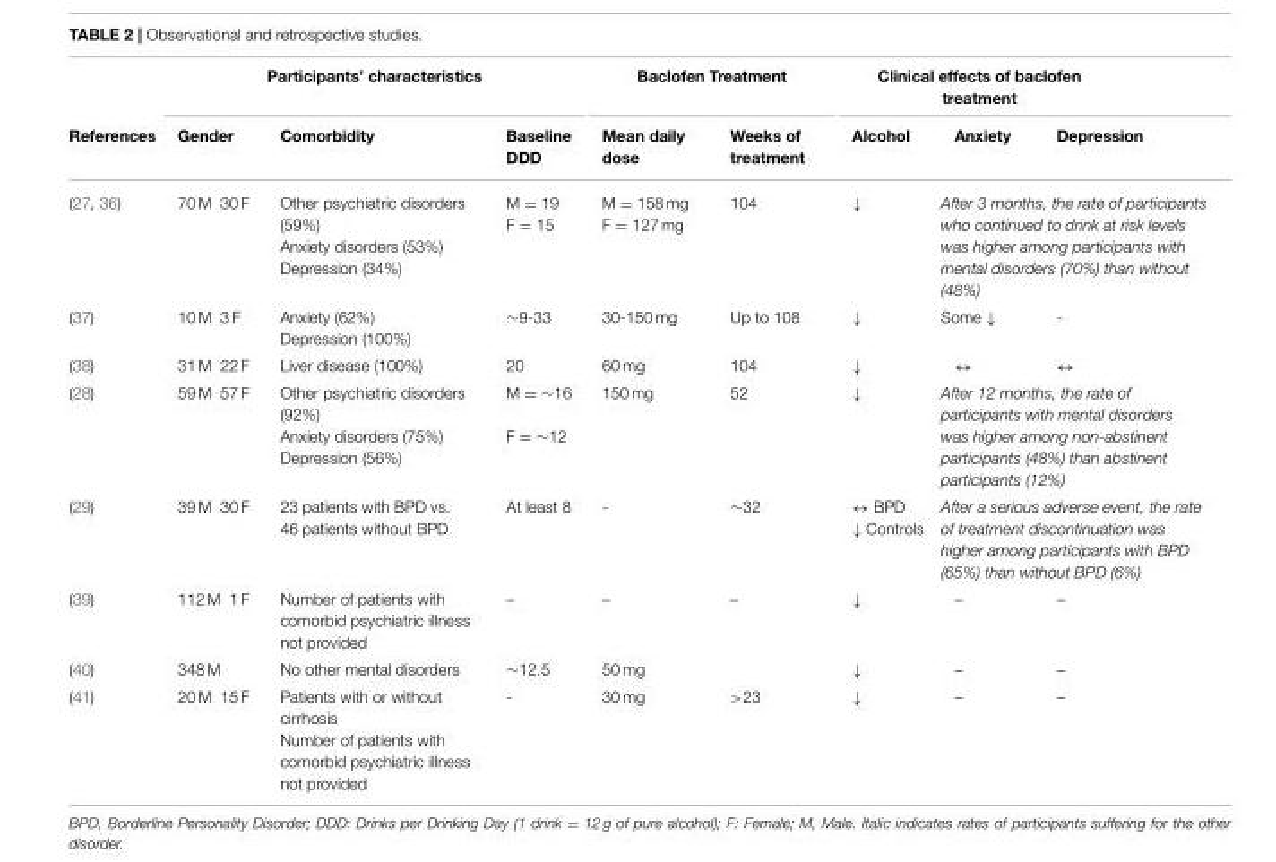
<table><thead><tr><td rowspan="2">References</td><td colspan="3">Participants’ characteristics</td><td colspan="2">Baclofen Treatment</td><td colspan="3">Clinical effects of baclofen treatment</td></tr><tr><td>Gender</td><td>Comorbidity</td><td>Baseline DDD</td><td>Mean daily dose</td><td>Weeks of treatment</td><td>Alcohol</td><td>Anxiety</td><td>Depression</td></tr></thead><tbody><tr><td>(27, 36)</td><td>70 M 30 F</td><td>Other psychiatric disorders (59%) Anxiety disorders (53%) Depression (34%)</td><td>M = 19 F = 15</td><td>M = 158 mg F = 127 mg</td><td>104</td><td>↓</td><td colspan="2">After 3 months, the rate of participants who continued to drink at risk levels was higher among participants with mental disorders (70%) than without (48%)</td></tr><tr><td>(37)</td><td>10 M 3 F</td><td>Anxiety (62%) Depression (100%)</td><td>∼9-33</td><td>30-150 mg</td><td>Up to 108</td><td>↓</td><td>Some ↓</td><td>-</td></tr><tr><td>(38)</td><td>31 M 22 F</td><td>Liver disease (100%)</td><td>20</td><td>60 mg</td><td>104</td><td>↓</td><td>↔</td><td>↔</td></tr><tr><td>(28)</td><td>59 M 57 F</td><td>Other psychiatric disorders (92%) Anxiety disorders (75%) Depression (56%)</td><td>M = ∼16 F = ∼12</td><td>150 mg</td><td>52</td><td>↓</td><td colspan="2">After 12 months, the rate of participants with mental disorders was higher among non-abstinent participants (48%) than abstinent participants (12%)</td></tr><tr><td>(29)</td><td>39 M 30 F</td><td>23 patients with BPD vs. 46 patients without BPD</td><td>At least 8</td><td>-</td><td>∼32</td><td>↔ BPD ↓ Controls</td><td colspan="2">After a serious adverse event, the rate of treatment discontinuation was higher among participants with BPD (65%) than without BPD (6%)</td></tr><tr><td>(39)</td><td>112 M 1 F</td><td>Number of patients with comorbid psychiatric illness not provided</td><td>–</td><td>–</td><td>–</td><td>↓</td><td>–</td><td>–</td></tr><tr><td>(40)</td><td>348 M</td><td>No other mental disorders</td><td>∼12.5</td><td>50 mg</td><td></td><td>↓</td><td>–</td><td>–</td></tr><tr><td>(41)</td><td>20 M 15 F</td><td>Patients with or without cirrhosis Number of patients with comorbid psychiatric illness not provided</td><td>-</td><td>30 mg</td><td>&gt;23</td><td>↓</td><td>–</td><td>–</td></tr></tbody></table>